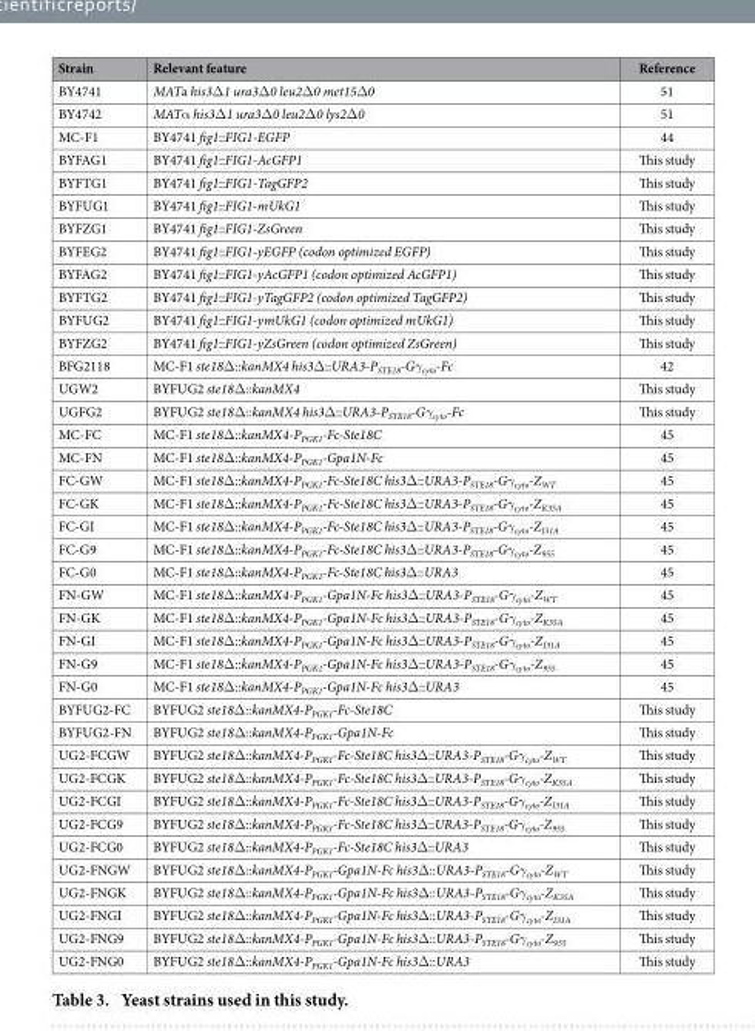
<table><thead><tr><td>Strain</td><td>Relevant feature</td><td>Reference</td></tr></thead><tbody><tr><td>BY4741</td><td>MATa his3Δ 1 ura3Δ 0 leu2Δ 0 met15Δ 0</td><td>51</td></tr><tr><td>BY4742</td><td>MATα his3Δ 1 ura3Δ 0 leu2Δ 0 lys2Δ 0</td><td>51</td></tr><tr><td>MC-F1</td><td>BY4741 fig1::FIG1-EGFP</td><td>44</td></tr><tr><td>BYFAG1</td><td>BY4741 fig1::FIG1-AcGFP1</td><td>This study</td></tr><tr><td>BYFTG1</td><td>BY4741 fig1::FIG1-TagGFP2</td><td>This study</td></tr><tr><td>BYFUG1</td><td>BY4741 fig1::FIG1-mUkG1</td><td>This study</td></tr><tr><td>BYFZG1</td><td>BY4741 fig1::FIG1-ZsGreen</td><td>This study</td></tr><tr><td>BYFEG2</td><td>BY4741 fig1::FIG1-yEGFP (codon optimized EGFP)</td><td>This study</td></tr><tr><td>BYFAG2</td><td>BY4741 fig1::FIG1-yAcGFP1 (codon optimized AcGFP1)</td><td>This study</td></tr><tr><td>BYFTG2</td><td>BY4741 fig1::FIG1-yTagGFP2 (codon optimized TagGFP2)</td><td>This study</td></tr><tr><td>BYFUG2</td><td>BY4741 fig1::FIG1-ymUkG1 (codon optimized mUkG1)</td><td>This study</td></tr><tr><td>BYFZG2</td><td>BY4741 fig1::FIG1-yZsGreen (codon optimized ZsGreen)</td><td>This study</td></tr><tr><td>BFG2118</td><td>MC-F1 ste18Δ ::kanMX4 his3Δ ::URA3-P<sub>STE18</sub>-Gγ<sub>cyto</sub>-Fc</td><td>42</td></tr><tr><td>UGW2</td><td>BYFUG2 ste18Δ ::kanMX4</td><td>This study</td></tr><tr><td>UGFG2</td><td>BYFUG2 ste18Δ ::kanMX4 his3Δ ::URA3-P<sub>STE18</sub>-Gγ<sub>cyto</sub>-Fc</td><td>This study</td></tr><tr><td>MC-FC</td><td>MC-F1 ste18Δ ::kanMX4-P<sub>PGK1</sub>-Fc-Ste18C</td><td>45</td></tr><tr><td>MC-FN</td><td>MC-F1 ste18Δ ::kanMX4-P<sub>PGK1</sub>-Gpa1N-Fc</td><td>45</td></tr><tr><td>FC-GW</td><td>MC-F1 ste18Δ ::kanMX4-P<sub>PGK1</sub>-Fc-Ste18C his3Δ ::URA3-P<sub>STE18</sub>-Gγ<sub>cyto</sub>-Z<sub>WT</sub></td><td>45</td></tr><tr><td>FC-GK</td><td>MC-F1 ste18Δ ::kanMX4-P<sub>PGK1</sub>-Fc-Ste18C his3Δ ::URA3-P<sub>STE18</sub>-Gγ<sub>cyto</sub>-Z<sub>K35A</sub></td><td>45</td></tr><tr><td>FC-GI</td><td>MC-F1 ste18Δ ::kanMX4-P<sub>PGK1</sub>-Fc-Ste18C his3Δ ::URA3-P<sub>STE18</sub>-Gγ<sub>cyto</sub>-Z<sub>I31A</sub></td><td>45</td></tr><tr><td>FC-G9</td><td>MC-F1 ste18Δ ::kanMX4-P<sub>PGK1</sub>-Fc-Ste18C his3Δ ::URA3-P<sub>STE18</sub>-Gγ<sub>cyto</sub>-Z<sub>955</sub></td><td>45</td></tr><tr><td>FC-G0</td><td>MC-F1 ste18Δ ::kanMX4-P<sub>PGK1</sub>-Fc-Ste18C his3Δ ::URA3</td><td>45</td></tr><tr><td>FN-GW</td><td>MC-F1 ste18Δ ::kanMX4-P<sub>PGK1</sub>-Gpa1N-Fc his3Δ ::URA3-P<sub>STE18</sub>-Gγ<sub>cyto</sub>-Z<sub>WT</sub></td><td>45</td></tr><tr><td>FN-GK</td><td>MC-F1 ste18Δ ::kanMX4-P<sub>PGK1</sub>-Gpa1N-Fc his3Δ ::URA3-P<sub>STE18</sub>-Gγ<sub>cyto</sub>-Z<sub>K35A</sub></td><td>45</td></tr><tr><td>FN-GI</td><td>MC-F1 ste18Δ ::kanMX4-P<sub>PGK1</sub>-Gpa1N-Fc his3Δ ::URA3-P<sub>STE18</sub>-Gγ<sub>cyto</sub>-Z<sub>I31A</sub></td><td>45</td></tr><tr><td>FN-G9</td><td>MC-F1 ste18Δ ::kanMX4-P<sub>PGK1</sub>-Gpa1N-Fc his3Δ ::URA3-P<sub>STE18</sub>-Gγ<sub>cyto</sub>-Z<sub>955</sub></td><td>45</td></tr><tr><td>FN-G0</td><td>MC-F1 ste18Δ ::kanMX4-P<sub>PGK1</sub>-Gpa1N-Fc his3Δ ::URA3</td><td>45</td></tr><tr><td>BYFUG2-FC</td><td>BYFUG2 ste18Δ ::kanMX4-P<sub>PGK1</sub>-Fc-Ste18C</td><td>This study</td></tr><tr><td>BYFUG2-FN</td><td>BYFUG2 ste18Δ ::kanMX4-P<sub>PGK1</sub>-Gpa1N-Fc</td><td>This study</td></tr><tr><td>UG2-FCGW</td><td>BYFUG2 ste18Δ ::kanMX4-P<sub>PGK1</sub>-Fc-Ste18C his3Δ ::URA3-P<sub>STE18</sub>-Gγ<sub>cyto</sub>-Z<sub>WT</sub></td><td>This study</td></tr><tr><td>UG2-FCGK</td><td>BYFUG2 ste18Δ ::kanMX4-P<sub>PGK1</sub>-Fc-Ste18C his3Δ ::URA3-P<sub>STE18</sub>-Gγ<sub>cyto</sub>-Z<sub>K35A</sub></td><td>This study</td></tr><tr><td>UG2-FCGI</td><td>BYFUG2 ste18Δ ::kanMX4-P<sub>PGK1</sub>-Fc-Ste18C his3Δ ::URA3-P<sub>STE18</sub>-Gγ<sub>cyto</sub>-Z<sub>I31A</sub></td><td>This study</td></tr><tr><td>UG2-FCG9</td><td>BYFUG2 ste18Δ ::kanMX4-P<sub>PGK1</sub>-Fc-Ste18C his3Δ ::URA3-P<sub>STE18</sub>-Gγ<sub>cyto</sub>-Z<sub>955</sub></td><td>This study</td></tr><tr><td>UG2-FCG0</td><td>BYFUG2 ste18Δ ::kanMX4-P<sub>PGK1</sub>-Fc-Ste18C his3Δ ::URA3</td><td>This study</td></tr><tr><td>UG2-FNGW</td><td>BYFUG2 ste18Δ ::kanMX4-P<sub>PGK1</sub>-Gpa1N-Fc his3Δ ::URA3-P<sub>STE18</sub>-Gγ<sub>cyto</sub>-Z<sub>WT</sub></td><td>This study</td></tr><tr><td>UG2-FNGK</td><td>BYFUG2 ste18Δ ::kanMX4-P<sub>PGK1</sub>-Gpa1N-Fc his3Δ ::URA3-P<sub>STE18</sub>-Gγ<sub>cyto</sub>-Z<sub>K35A</sub></td><td>This study</td></tr><tr><td>UG2-FNGI</td><td>BYFUG2 ste18Δ ::kanMX4-P<sub>PGK1</sub>-Gpa1N-Fc his3Δ ::URA3-P<sub>STE18</sub>-Gγ<sub>cyto</sub>-Z<sub>I31A</sub></td><td>This study</td></tr><tr><td>UG2-FNG9</td><td>BYFUG2 ste18Δ ::kanMX4-P<sub>PGK1</sub>-Gpa1N-Fc his3Δ ::URA3-P<sub>STE18</sub>-Gγ<sub>cyto</sub>-Z<sub>955</sub></td><td>This study</td></tr><tr><td>UG2-FNG0</td><td>BYFUG2 ste18Δ ::kanMX4-P<sub>PGK1</sub>-Gpa1N-Fc his3Δ ::URA3</td><td>This study</td></tr></tbody></table>